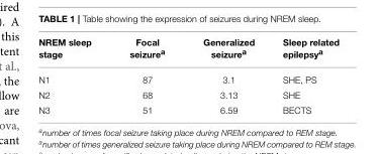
<table><thead><tr><td>NREM sleep stage</td><td>Focal seizure<sup>a</sup></td><td>Generalized seizure<sup>a</sup></td><td>Sleep related epilepsy<sup>a</sup></td></tr></thead><tbody><tr><td>N1</td><td>87</td><td>3.1</td><td>SHE, PS</td></tr><tr><td>N2</td><td>68</td><td>3.13</td><td>SHE</td></tr><tr><td>N3</td><td>51</td><td>6.59</td><td>BECTS</td></tr></tbody></table>